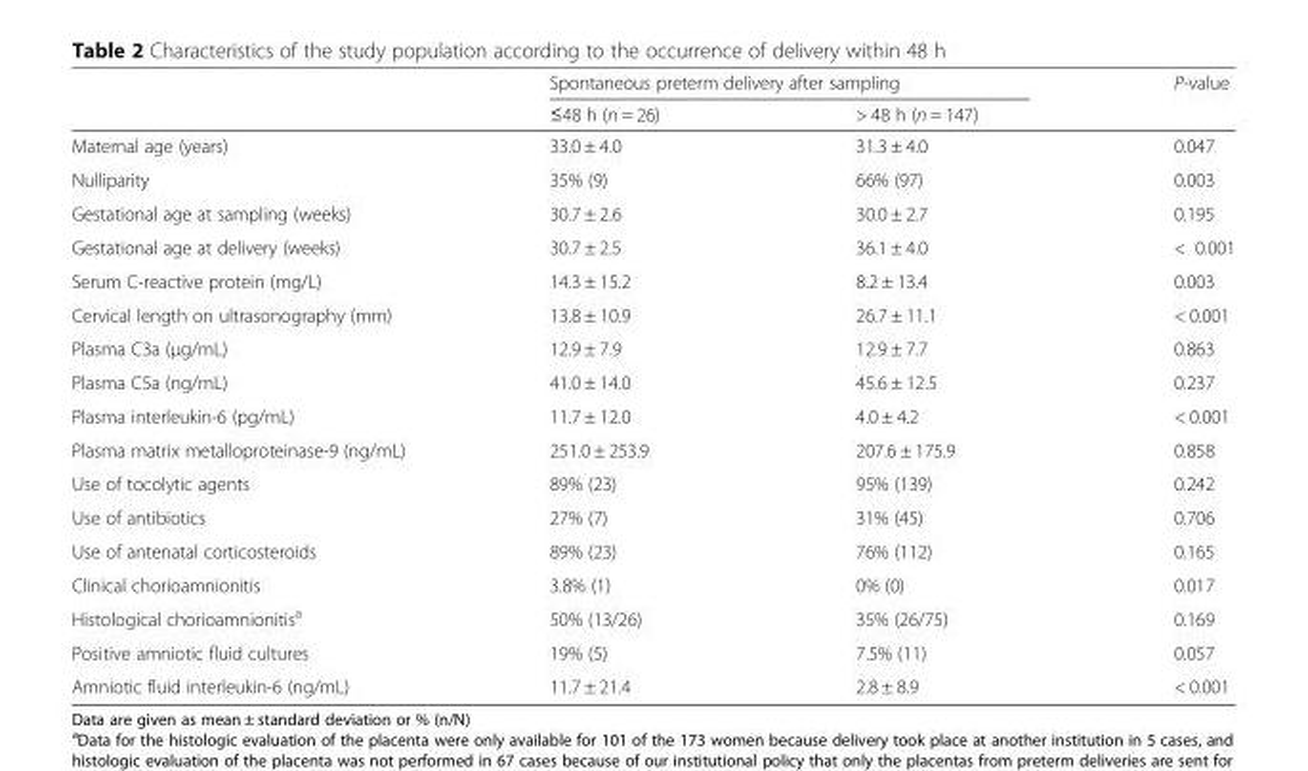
<table><thead><tr><td rowspan="2"></td><td colspan="2">Spontaneous preterm delivery after sampling</td><td rowspan="2">P-value</td></tr><tr><td>≤48 h (n = 26)</td><td>&gt; 48 h (n = 147)</td></tr></thead><tbody><tr><td>Maternal age (years)</td><td>33.0 ± 4.0</td><td>31.3 ± 4.0</td><td>0.047</td></tr><tr><td>Nulliparity</td><td>35% (9)</td><td>66% (97)</td><td>0.003</td></tr><tr><td>Gestational age at sampling (weeks)</td><td>30.7 ± 2.6</td><td>30.0 ± 2.7</td><td>0.195</td></tr><tr><td>Gestational age at delivery (weeks)</td><td>30.7 ± 2.5</td><td>36.1 ± 4.0</td><td>&lt; 0.001</td></tr><tr><td>Serum C-reactive protein (mg/L)</td><td>14.3 ± 15.2</td><td>8.2 ± 13.4</td><td>0.003</td></tr><tr><td>Cervical length on ultrasonography (mm)</td><td>13.8 ± 10.9</td><td>26.7 ± 11.1</td><td>&lt; 0.001</td></tr><tr><td>Plasma C3a (μg/mL)</td><td>12.9 ± 7.9</td><td>12.9 ± 7.7</td><td>0.863</td></tr><tr><td>Plasma C5a (ng/mL)</td><td>41.0 ± 14.0</td><td>45.6 ± 12.5</td><td>0.237</td></tr><tr><td>Plasma interleukin-6 (pg/mL)</td><td>11.7 ± 12.0</td><td>4.0 ± 4.2</td><td>&lt; 0.001</td></tr><tr><td>Plasma matrix metalloproteinase-9 (ng/mL)</td><td>251.0 ± 253.9</td><td>207.6 ± 175.9</td><td>0.858</td></tr><tr><td>Use of tocolytic agents</td><td>89% (23)</td><td>95% (139)</td><td>0.242</td></tr><tr><td>Use of antibiotics</td><td>27% (7)</td><td>31% (45)</td><td>0.706</td></tr><tr><td>Use of antenatal corticosteroids</td><td>89% (23)</td><td>76% (112)</td><td>0.165</td></tr><tr><td>Clinical chorioamnionitis</td><td>3.8% (1)</td><td>0% (0)</td><td>0.017</td></tr><tr><td>Histological chorioamnionitis<sup>a</sup></td><td>50% (13/26)</td><td>35% (26/75)</td><td>0.169</td></tr><tr><td>Positive amniotic fluid cultures</td><td>19% (5)</td><td>7.5% (11)</td><td>0.057</td></tr><tr><td>Amniotic fluid interleukin-6 (ng/mL)</td><td>11.7 ± 21.4</td><td>2.8 ± 8.9</td><td>&lt; 0.001</td></tr></tbody></table>